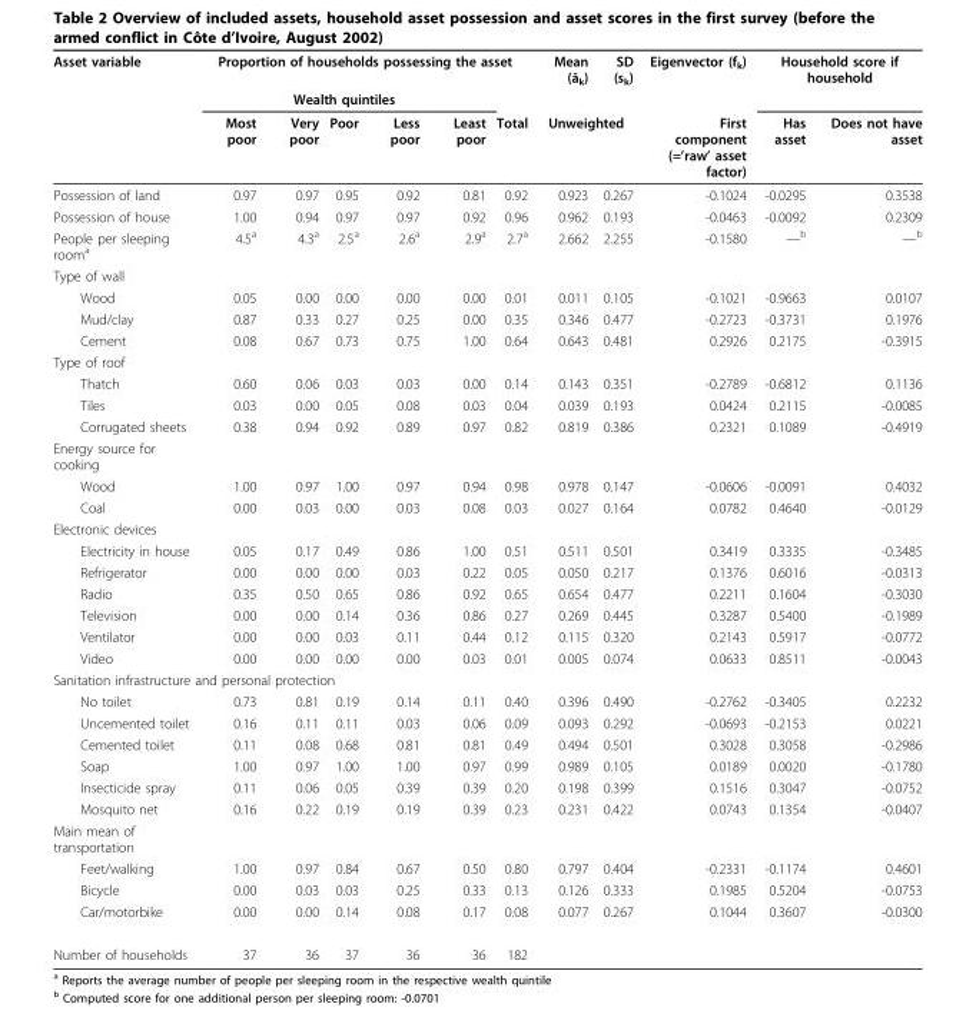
<table><thead><tr><td rowspan="3">Asset variable</td><td colspan="6">Proportion of households possessing the asset</td><td rowspan="2">Mean (ā<sub>k</sub>)</td><td rowspan="2">SD (s<sub>k</sub>)</td><td rowspan="3">Eigenvector (f<sub>k</sub>) First component (=’raw’ asset factor)</td><td colspan="2">Household score if household</td></tr><tr><td colspan="5">Wealth quintiles</td><td rowspan="2">Total</td><td rowspan="2">Has asset</td><td rowspan="2">Does not have asset</td></tr><tr><td>Most poor</td><td>Very poor</td><td>Poor</td><td>Less poor</td><td>Least poor</td><td colspan="2">Unweighted</td></tr></thead><tbody><tr><td>Possession of land</td><td>0.97</td><td>0.97</td><td>0.95</td><td>0.92</td><td>0.81</td><td>0.92</td><td>0.923</td><td>0.267</td><td>-0.1024</td><td>-0.0295</td><td>0.3538</td></tr><tr><td>Possession of house</td><td>1.00</td><td>0.94</td><td>0.97</td><td>0.97</td><td>0.92</td><td>0.96</td><td>0.962</td><td>0.193</td><td>-0.0463</td><td>-0.0092</td><td>0.2309</td></tr><tr><td>People per sleeping room<sup>a</sup></td><td>4.5<sup>a</sup></td><td>4.3<sup>a</sup></td><td>2.5<sup>a</sup></td><td>2.6<sup>a</sup></td><td>2.9<sup>a</sup></td><td>2.7<sup>a</sup></td><td>2.662</td><td>2.255</td><td>-0.1580</td><td>—b</td><td>—b</td></tr><tr><td colspan="12">Type of wall</td></tr><tr><td>Wood</td><td>0.05</td><td>0.00</td><td>0.00</td><td>0.00</td><td>0.00</td><td>0.01</td><td>0.011</td><td>0.105</td><td>-0.1021</td><td>-0.9663</td><td>0.0107</td></tr><tr><td>Mud/clay</td><td>0.87</td><td>0.33</td><td>0.27</td><td>0.25</td><td>0.00</td><td>0.35</td><td>0.346</td><td>0.477</td><td>-0.2723</td><td>-0.3731</td><td>0.1976</td></tr><tr><td>Cement</td><td>0.08</td><td>0.67</td><td>0.73</td><td>0.75</td><td>1.00</td><td>0.64</td><td>0.643</td><td>0.481</td><td>0.2926</td><td>0.2175</td><td>-0.3915</td></tr><tr><td colspan="12">Type of roof</td></tr><tr><td>Thatch</td><td>0.60</td><td>0.06</td><td>0.03</td><td>0.03</td><td>0.00</td><td>0.14</td><td>0.143</td><td>0.351</td><td>-0.2789</td><td>-0.6812</td><td>0.1136</td></tr><tr><td>Tiles</td><td>0.03</td><td>0.00</td><td>0.05</td><td>0.08</td><td>0.03</td><td>0.04</td><td>0.039</td><td>0.193</td><td>0.0424</td><td>0.2115</td><td>-0.0085</td></tr><tr><td>Corrugated sheets</td><td>0.38</td><td>0.94</td><td>0.92</td><td>0.89</td><td>0.97</td><td>0.82</td><td>0.819</td><td>0.386</td><td>0.2321</td><td>0.1089</td><td>-0.4919</td></tr><tr><td colspan="12">Energy source for cooking</td></tr><tr><td>Wood</td><td>1.00</td><td>0.97</td><td>1.00</td><td>0.97</td><td>0.94</td><td>0.98</td><td>0.978</td><td>0.147</td><td>-0.0606</td><td>-0.0091</td><td>0.4032</td></tr><tr><td>Coal</td><td>0.00</td><td>0.03</td><td>0.00</td><td>0.03</td><td>0.08</td><td>0.03</td><td>0.027</td><td>0.164</td><td>0.0782</td><td>0.4640</td><td>-0.0129</td></tr><tr><td colspan="12">Electronic devices</td></tr><tr><td>Electricity in house</td><td>0.05</td><td>0.17</td><td>0.49</td><td>0.86</td><td>1.00</td><td>0.51</td><td>0.511</td><td>0.501</td><td>0.3419</td><td>0.3335</td><td>-0.3485</td></tr><tr><td>Refrigerator</td><td>0.00</td><td>0.00</td><td>0.00</td><td>0.03</td><td>0.22</td><td>0.05</td><td>0.050</td><td>0.217</td><td>0.1376</td><td>0.6016</td><td>-0.0313</td></tr><tr><td>Radio</td><td>0.35</td><td>0.50</td><td>0.65</td><td>0.86</td><td>0.92</td><td>0.65</td><td>0.654</td><td>0.477</td><td>0.2211</td><td>0.1604</td><td>-0.3030</td></tr><tr><td>Television</td><td>0.00</td><td>0.00</td><td>0.14</td><td>0.36</td><td>0.86</td><td>0.27</td><td>0.269</td><td>0.445</td><td>0.3287</td><td>0.5400</td><td>-0.1989</td></tr><tr><td>Ventilator</td><td>0.00</td><td>0.00</td><td>0.03</td><td>0.11</td><td>0.44</td><td>0.12</td><td>0.115</td><td>0.320</td><td>0.2143</td><td>0.5917</td><td>-0.0772</td></tr><tr><td>Video</td><td>0.00</td><td>0.00</td><td>0.00</td><td>0.00</td><td>0.03</td><td>0.01</td><td>0.005</td><td>0.074</td><td>0.0633</td><td>0.8511</td><td>-0.0043</td></tr><tr><td colspan="12">Sanitation infrastructure and personal protection</td></tr><tr><td>No toilet</td><td>0.73</td><td>0.81</td><td>0.19</td><td>0.14</td><td>0.11</td><td>0.40</td><td>0.396</td><td>0.490</td><td>-0.2762</td><td>-0.3405</td><td>0.2232</td></tr><tr><td>Uncemented toilet</td><td>0.16</td><td>0.11</td><td>0.11</td><td>0.03</td><td>0.06</td><td>0.09</td><td>0.093</td><td>0.292</td><td>-0.0693</td><td>-0.2153</td><td>0.0221</td></tr><tr><td>Cemented toilet</td><td>0.11</td><td>0.08</td><td>0.68</td><td>0.81</td><td>0.81</td><td>0.49</td><td>0.494</td><td>0.501</td><td>0.3028</td><td>0.3058</td><td>-0.2986</td></tr><tr><td>Soap</td><td>1.00</td><td>0.97</td><td>1.00</td><td>1.00</td><td>0.97</td><td>0.99</td><td>0.989</td><td>0.105</td><td>0.0189</td><td>0.0020</td><td>-0.1780</td></tr><tr><td>Insecticide spray</td><td>0.11</td><td>0.06</td><td>0.05</td><td>0.39</td><td>0.39</td><td>0.20</td><td>0.198</td><td>0.399</td><td>0.1516</td><td>0.3047</td><td>-0.0752</td></tr><tr><td>Mosquito net</td><td>0.16</td><td>0.22</td><td>0.19</td><td>0.19</td><td>0.39</td><td>0.23</td><td>0.231</td><td>0.422</td><td>0.0743</td><td>0.1354</td><td>-0.0407</td></tr><tr><td colspan="12">Main mean of transportation</td></tr><tr><td>Feet/walking</td><td>1.00</td><td>0.97</td><td>0.84</td><td>0.67</td><td>0.50</td><td>0.80</td><td>0.797</td><td>0.404</td><td>-0.2331</td><td>-0.1174</td><td>0.4601</td></tr><tr><td>Bicycle</td><td>0.00</td><td>0.03</td><td>0.03</td><td>0.25</td><td>0.33</td><td>0.13</td><td>0.126</td><td>0.333</td><td>0.1985</td><td>0.5204</td><td>-0.0753</td></tr><tr><td>Car/motorbike</td><td>0.00</td><td>0.00</td><td>0.14</td><td>0.08</td><td>0.17</td><td>0.08</td><td>0.077</td><td>0.267</td><td>0.1044</td><td>0.3607</td><td>-0.0300</td></tr><tr><td>Number of households</td><td>37</td><td>36</td><td>37</td><td>36</td><td>36</td><td>182</td><td></td><td></td><td></td><td></td><td></td></tr></tbody></table>